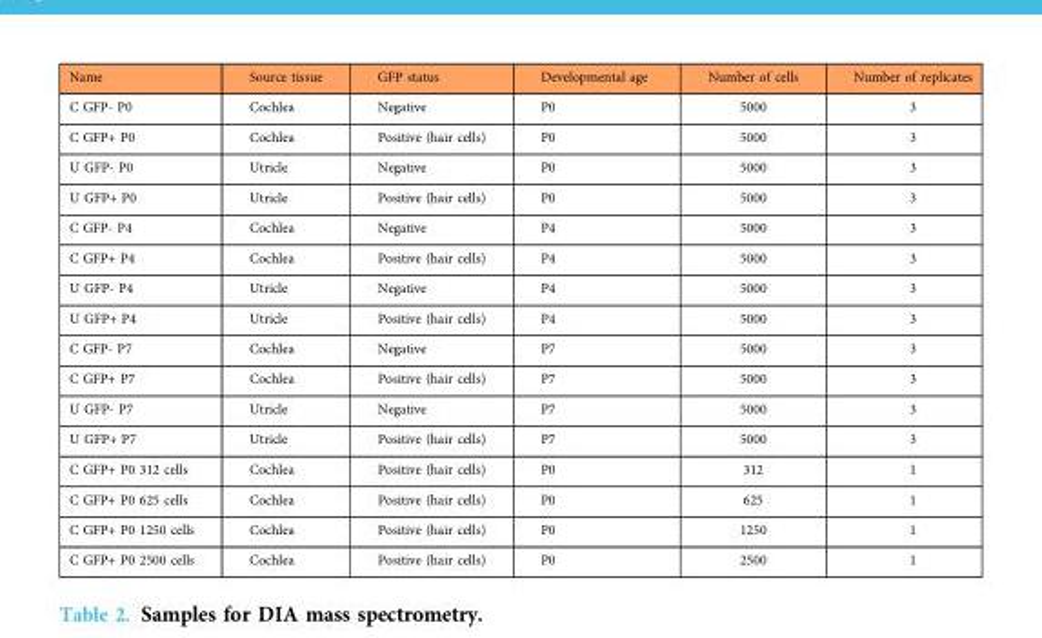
<table><thead><tr><td>Name</td><td>Source tissue</td><td>GFP status</td><td>Developmental age</td><td>Number of cells</td><td>Number of replicates</td></tr></thead><tbody><tr><td>C GFP- P0</td><td>Cochlea</td><td>Negative</td><td>P0</td><td>5000</td><td>3</td></tr><tr><td>C GFP+ P0</td><td>Cochlea</td><td>Positive (hair cells)</td><td>P0</td><td>5000</td><td>3</td></tr><tr><td>U GFP- P0</td><td>Utricle</td><td>Negative</td><td>P0</td><td>5000</td><td>3</td></tr><tr><td>U GFP+ P0</td><td>Utricle</td><td>Positive (hair cells)</td><td>P0</td><td>5000</td><td>3</td></tr><tr><td>C GFP- P4</td><td>Cochlea</td><td>Negative</td><td>P4</td><td>5000</td><td>3</td></tr><tr><td>C GFP+ P4</td><td>Cochlea</td><td>Positive (hair cells)</td><td>P4</td><td>5000</td><td>3</td></tr><tr><td>U GFP- P4</td><td>Utricle</td><td>Negative</td><td>P4</td><td>5000</td><td>3</td></tr><tr><td>U GFP+ P4</td><td>Utricle</td><td>Positive (hair cells)</td><td>P4</td><td>5000</td><td>3</td></tr><tr><td>C GFP- P7</td><td>Cochlea</td><td>Negative</td><td>P7</td><td>5000</td><td>3</td></tr><tr><td>C GFP+ P7</td><td>Cochlea</td><td>Positive (hair cells)</td><td>P7</td><td>5000</td><td>3</td></tr><tr><td>U GFP- P7</td><td>Utricle</td><td>Negative</td><td>P7</td><td>5000</td><td>3</td></tr><tr><td>U GFP+ P7</td><td>Utricle</td><td>Positive (hair cells)</td><td>P7</td><td>5000</td><td>3</td></tr><tr><td>C GFP+ P0 312 cells</td><td>Cochlea</td><td>Positive (hair cells)</td><td>P0</td><td>312</td><td>1</td></tr><tr><td>C GFP+ P0 625 cells</td><td>Cochlea</td><td>Positive (hair cells)</td><td>P0</td><td>625</td><td>1</td></tr><tr><td>C GFP+ P0 1250 cells</td><td>Cochlea</td><td>Positive (hair cells)</td><td>P0</td><td>1250</td><td>1</td></tr><tr><td>C GFP+ P0 2500 cells</td><td>Cochlea</td><td>Positive (hair cells)</td><td>P0</td><td>2500</td><td>1</td></tr></tbody></table>